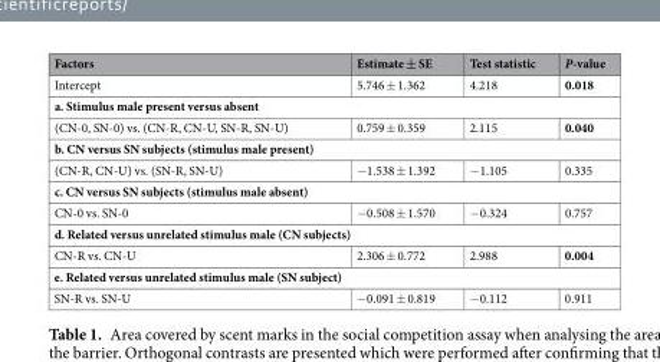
<table><thead><tr><td>Factors</td><td>Estimate ± SE</td><td>Test statistic</td><td>P-value</td></tr></thead><tbody><tr><td>Intercept</td><td>5.746 ± 1.362</td><td>4.218</td><td>0.018</td></tr><tr><td colspan="4">a. Stimulus male present versus absent</td></tr><tr><td>(CN-0, SN-0) vs. (CN-R, CN-U, SN-R, SN-U)</td><td>0.759 ± 0.359</td><td>2.115</td><td>0.040</td></tr><tr><td colspan="4">b. CN versus SN subjects (stimulus male present)</td></tr><tr><td>(CN-R, CN-U) vs. (SN-R, SN-U)</td><td>−1.538 ± 1.392</td><td>−1.105</td><td>0.335</td></tr><tr><td colspan="4">c. CN versus SN subjects (stimulus male absent)</td></tr><tr><td>CN-0 vs. SN-0</td><td>−0.508 ± 1.570</td><td>−0.324</td><td>0.757</td></tr><tr><td colspan="4">d. Related versus unrelated stimulus male (CN subjects)</td></tr><tr><td>CN-R vs. CN-U</td><td>2.306 ± 0.772</td><td>2.988</td><td>0.004</td></tr><tr><td colspan="4">e. Related versus unrelated stimulus male (SN subject)</td></tr><tr><td>SN-R vs. SN-U</td><td>−0.091 ± 0.819</td><td>−0.112</td><td>0.911</td></tr></tbody></table>